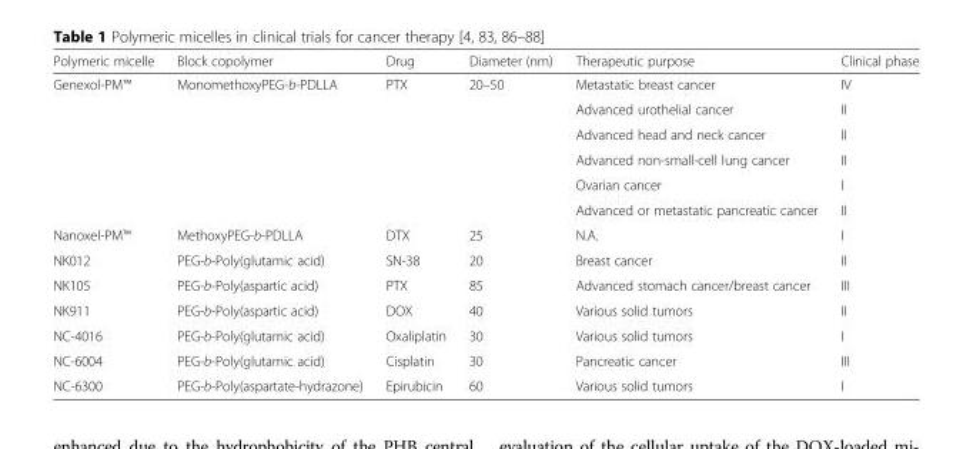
<table><thead><tr><td>Polymeric micelle</td><td>Block copolymer</td><td>Drug</td><td>Diameter (nm)</td><td>Therapeutic purpose</td><td>Clinical phase</td></tr></thead><tbody><tr><td rowspan="6">Genexol-PM™</td><td>MonomethoxyPEG-b-PDLLA</td><td>PTX</td><td>20–50</td><td>Metastatic breast cancer</td><td>IV</td></tr><tr><td></td><td></td><td></td><td>Advanced urothelial cancer</td><td>II</td></tr><tr><td></td><td></td><td></td><td>Advanced head and neck cancer</td><td>II</td></tr><tr><td></td><td></td><td></td><td>Advanced non-small-cell lung cancer</td><td>II</td></tr><tr><td></td><td></td><td></td><td>Ovarian cancer</td><td>I</td></tr><tr><td></td><td></td><td></td><td>Advanced or metastatic pancreatic cancer</td><td>II</td></tr><tr><td>Nanoxel-PM™</td><td>MethoxyPEG-b-PDLLA</td><td>DTX</td><td>25</td><td>N.A.</td><td>I</td></tr><tr><td>NK012</td><td>PEG-b-Poly(glutamic acid)</td><td>SN-38</td><td>20</td><td>Breast cancer</td><td>II</td></tr><tr><td>NK105</td><td>PEG-b-Poly(aspartic acid)</td><td>PTX</td><td>85</td><td>Advanced stomach cancer/breast cancer</td><td>III</td></tr><tr><td>NK911</td><td>PEG-b-Poly(aspartic acid)</td><td>DOX</td><td>40</td><td>Various solid tumors</td><td>II</td></tr><tr><td>NC-4016</td><td>PEG-b-Poly(glutamic acid)</td><td>Oxaliplatin</td><td>30</td><td>Various solid tumors</td><td>I</td></tr><tr><td>NC-6004</td><td>PEG-b-Poly(glutamic acid)</td><td>Cisplatin</td><td>30</td><td>Pancreatic cancer</td><td>III</td></tr><tr><td>NC-6300</td><td>PEG-b-Poly(aspartate-hydrazone)</td><td>Epirubicin</td><td>60</td><td>Various solid tumors</td><td>I</td></tr></tbody></table>